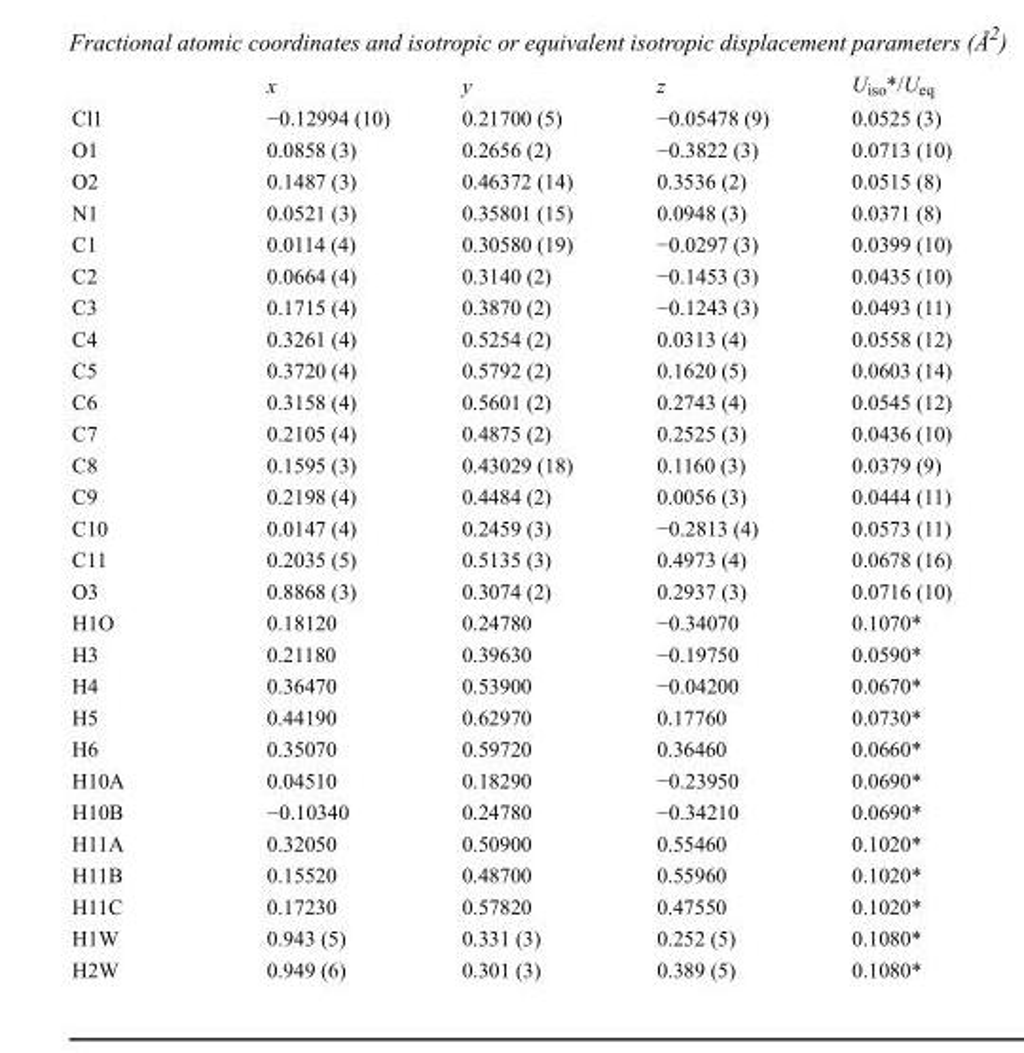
<table><thead><tr><td></td><td>x</td><td>y</td><td>z</td><td>U<sub>iso</sub>*/U<sub>eq</sub></td></tr></thead><tbody><tr><td>Cl1</td><td>−0.12994 (10)</td><td>0.21700 (5)</td><td>−0.05478 (9)</td><td>0.0525 (3)</td></tr><tr><td>O1</td><td>0.0858 (3)</td><td>0.2656 (2)</td><td>−0.3822 (3)</td><td>0.0713 (10)</td></tr><tr><td>O2</td><td>0.1487 (3)</td><td>0.46372 (14)</td><td>0.3536 (2)</td><td>0.0515 (8)</td></tr><tr><td>N1</td><td>0.0521 (3)</td><td>0.35801 (15)</td><td>0.0948 (3)</td><td>0.0371 (8)</td></tr><tr><td>C1</td><td>0.0114 (4)</td><td>0.30580 (19)</td><td>−0.0297 (3)</td><td>0.0399 (10)</td></tr><tr><td>C2</td><td>0.0664 (4)</td><td>0.3140 (2)</td><td>−0.1453 (3)</td><td>0.0435 (10)</td></tr><tr><td>C3</td><td>0.1715 (4)</td><td>0.3870 (2)</td><td>−0.1243 (3)</td><td>0.0493 (11)</td></tr><tr><td>C4</td><td>0.3261 (4)</td><td>0.5254 (2)</td><td>0.0313 (4)</td><td>0.0558 (12)</td></tr><tr><td>C5</td><td>0.3720 (4)</td><td>0.5792 (2)</td><td>0.1620 (5)</td><td>0.0603 (14)</td></tr><tr><td>C6</td><td>0.3158 (4)</td><td>0.5601 (2)</td><td>0.2743 (4)</td><td>0.0545 (12)</td></tr><tr><td>C7</td><td>0.2105 (4)</td><td>0.4875 (2)</td><td>0.2525 (3)</td><td>0.0436 (10)</td></tr><tr><td>C8</td><td>0.1595 (3)</td><td>0.43029 (18)</td><td>0.1160 (3)</td><td>0.0379 (9)</td></tr><tr><td>C9</td><td>0.2198 (4)</td><td>0.4484 (2)</td><td>0.0056 (3)</td><td>0.0444 (11)</td></tr><tr><td>C10</td><td>0.0147 (4)</td><td>0.2459 (3)</td><td>−0.2813 (4)</td><td>0.0573 (11)</td></tr><tr><td>C11</td><td>0.2035 (5)</td><td>0.5135 (3)</td><td>0.4973 (4)</td><td>0.0678 (16)</td></tr><tr><td>O3</td><td>0.8868 (3)</td><td>0.3074 (2)</td><td>0.2937 (3)</td><td>0.0716 (10)</td></tr><tr><td>H1O</td><td>0.18120</td><td>0.24780</td><td>−0.34070</td><td>0.1070*</td></tr><tr><td>H3</td><td>0.21180</td><td>0.39630</td><td>−0.19750</td><td>0.0590*</td></tr><tr><td>H4</td><td>0.36470</td><td>0.53900</td><td>−0.04200</td><td>0.0670*</td></tr><tr><td>H5</td><td>0.44190</td><td>0.62970</td><td>0.17760</td><td>0.0730*</td></tr><tr><td>H6</td><td>0.35070</td><td>0.59720</td><td>0.36460</td><td>0.0660*</td></tr><tr><td>H10A</td><td>0.04510</td><td>0.18290</td><td>−0.23950</td><td>0.0690*</td></tr><tr><td>H10B</td><td>−0.10340</td><td>0.24780</td><td>−0.34210</td><td>0.0690*</td></tr><tr><td>H11A</td><td>0.32050</td><td>0.50900</td><td>0.55460</td><td>0.1020*</td></tr><tr><td>H11B</td><td>0.15520</td><td>0.48700</td><td>0.55960</td><td>0.1020*</td></tr><tr><td>H11C</td><td>0.17230</td><td>0.57820</td><td>0.47550</td><td>0.1020*</td></tr><tr><td>H1W</td><td>0.943 (5)</td><td>0.331 (3)</td><td>0.252 (5)</td><td>0.1080*</td></tr><tr><td>H2W</td><td>0.949 (6)</td><td>0.301 (3)</td><td>0.389 (5)</td><td>0.1080*</td></tr></tbody></table>